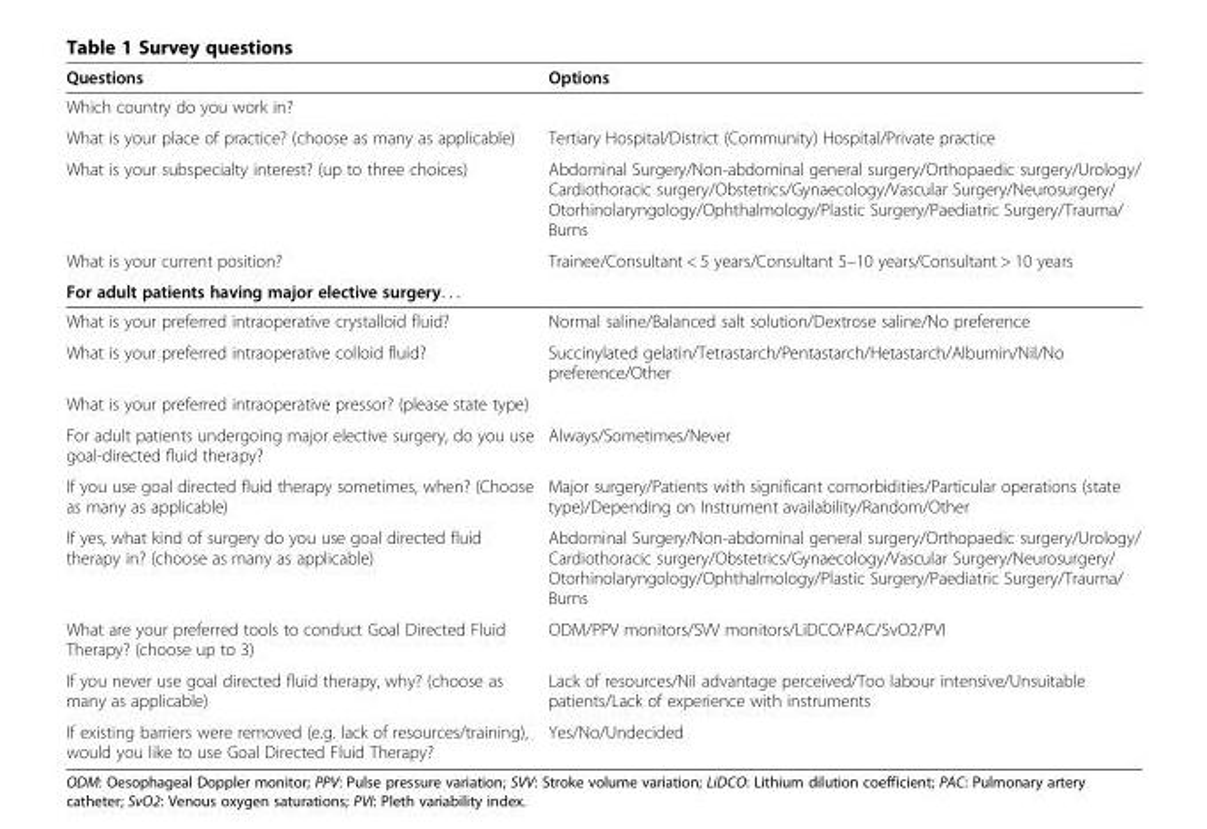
<table><thead><tr><td>Questions</td><td>Options</td></tr></thead><tbody><tr><td colspan="2">Which country do you work in?</td></tr><tr><td>What is your place of practice? (choose as many as applicable)</td><td>Tertiary Hospital/District (Community) Hospital/Private practice</td></tr><tr><td>What is your subspecialty interest? (up to three choices)</td><td>Abdominal Surgery/Non-abdominal general surgery/Orthopaedic surgery/Urology/ Cardiothoracic surgery/Obstetrics/Gynaecology/Vascular Surgery/Neurosurgery/ Otorhinolaryngology/Ophthalmology/Plastic Surgery/Paediatric Surgery/Trauma/ Burns</td></tr><tr><td>What is your current position?</td><td>Trainee/Consultant &lt; 5 years/Consultant 5–10 years/Consultant &gt; 10 years</td></tr><tr><td colspan="2">For adult patients having major elective surgery. . .</td></tr><tr><td>What is your preferred intraoperative crystalloid fluid?</td><td>Normal saline/Balanced salt solution/Dextrose saline/No preference</td></tr><tr><td>What is your preferred intraoperative colloid fluid?</td><td>Succinylated gelatin/Tetrastarch/Pentastarch/Hetastarch/Albumin/Nil/No preference/Other</td></tr><tr><td colspan="2">What is your preferred intraoperative pressor? (please state type)</td></tr><tr><td>For adult patients undergoing major elective surgery, do you use goal-directed fluid therapy?</td><td>Always/Sometimes/Never</td></tr><tr><td>If you use goal directed fluid therapy sometimes, when? (Choose as many as applicable)</td><td>Major surgery/Patients with significant comorbidities/Particular operations (state type)/Depending on Instrument availability/Random/Other</td></tr><tr><td>If yes, what kind of surgery do you use goal directed fluid therapy in? (choose as many as applicable)</td><td>Abdominal Surgery/Non-abdominal general surgery/Orthopaedic surgery/Urology/ Cardiothoracic surgery/Obstetrics/Gynaecology/Vascular Surgery/Neurosurgery/ Otorhinolaryngology/Ophthalmology/Plastic Surgery/Paediatric Surgery/Trauma/ Burns</td></tr><tr><td>What are your preferred tools to conduct Goal Directed Fluid Therapy? (choose up to 3)</td><td>ODM/PPV monitors/SVV monitors/LiDCO/PAC/SvO2/PVI</td></tr><tr><td>If you never use goal directed fluid therapy, why? (choose as many as applicable)</td><td>Lack of resources/Nil advantage perceived/Too labour intensive/Unsuitable patients/Lack of experience with instruments</td></tr><tr><td>If existing barriers were removed (e.g. lack of resources/training), would you like to use Goal Directed Fluid Therapy?</td><td>Yes/No/Undecided</td></tr></tbody></table>